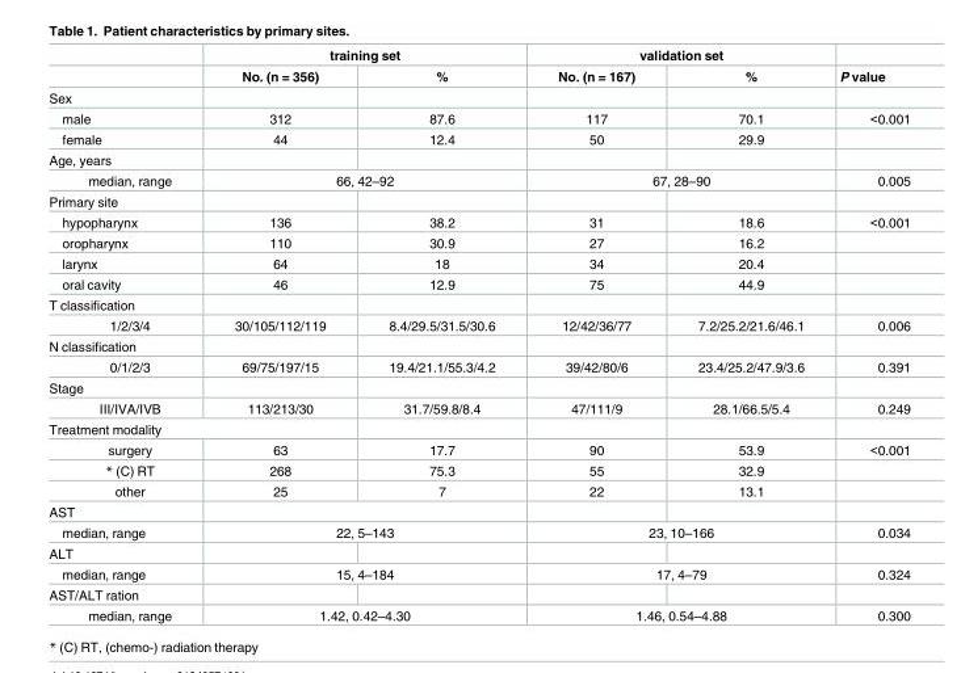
<table><thead><tr><td rowspan="2"></td><td colspan="2">training set</td><td colspan="2">validation set</td><td rowspan="2">P value</td></tr><tr><td>No. (n = 356)</td><td>%</td><td>No. (n = 167)</td><td>%</td></tr></thead><tbody><tr><td colspan="6">Sex</td></tr><tr><td>male</td><td>312</td><td>87.6</td><td>117</td><td>70.1</td><td>&lt;0.001</td></tr><tr><td>female</td><td>44</td><td>12.4</td><td>50</td><td>29.9</td><td></td></tr><tr><td colspan="6">Age, years</td></tr><tr><td>median, range</td><td colspan="2">66, 42–92</td><td colspan="2">67, 28–90</td><td>0.005</td></tr><tr><td colspan="6">Primary site</td></tr><tr><td>hypopharynx</td><td>136</td><td>38.2</td><td>31</td><td>18.6</td><td>&lt;0.001</td></tr><tr><td>oropharynx</td><td>110</td><td>30.9</td><td>27</td><td>16.2</td><td></td></tr><tr><td>larynx</td><td>64</td><td>18</td><td>34</td><td>20.4</td><td></td></tr><tr><td>oral cavity</td><td>46</td><td>12.9</td><td>75</td><td>44.9</td><td></td></tr><tr><td colspan="6">T classification</td></tr><tr><td>1/2/3/4</td><td>30/105/112/119</td><td>8.4/29.5/31.5/30.6</td><td>12/42/36/77</td><td>7.2/25.2/21.6/46.1</td><td>0.006</td></tr><tr><td colspan="6">N classification</td></tr><tr><td>0/1/2/3</td><td>69/75/197/15</td><td>19.4/21.1/55.3/4.2</td><td>39/42/80/6</td><td>23.4/25.2/47.9/3.6</td><td>0.391</td></tr><tr><td colspan="6">Stage</td></tr><tr><td>III/IVA/IVB</td><td>113/213/30</td><td>31.7/59.8/8.4</td><td>47/111/9</td><td>28.1/66.5/5.4</td><td>0.249</td></tr><tr><td colspan="6">Treatment modality</td></tr><tr><td>surgery</td><td>63</td><td>17.7</td><td>90</td><td>53.9</td><td>&lt;0.001</td></tr><tr><td>* (C) RT</td><td>268</td><td>75.3</td><td>55</td><td>32.9</td><td></td></tr><tr><td>other</td><td>25</td><td>7</td><td>22</td><td>13.1</td><td></td></tr><tr><td colspan="6">AST</td></tr><tr><td>median, range</td><td colspan="2">22, 5–143</td><td colspan="2">23, 10–166</td><td>0.034</td></tr><tr><td colspan="6">ALT</td></tr><tr><td>median, range</td><td colspan="2">15, 4–184</td><td colspan="2">17, 4–79</td><td>0.324</td></tr><tr><td colspan="6">AST/ALT ration</td></tr><tr><td>median, range</td><td colspan="2">1.42, 0.42–4.30</td><td colspan="2">1.46, 0.54–4.88</td><td>0.300</td></tr></tbody></table>